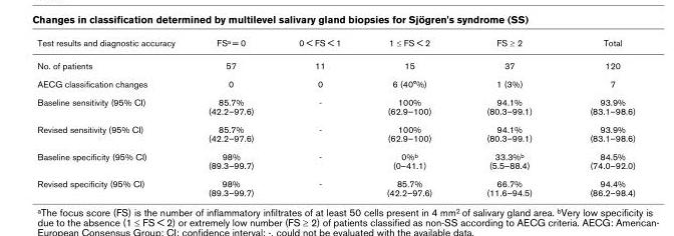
<table><thead><tr><td>Test results and diagnostic accuracy</td><td>FSa = 0</td><td>0 &lt; FS &lt; 1</td><td>1 ≤ FS &lt; 2</td><td>FS ≥ 2</td><td>Total</td></tr></thead><tbody><tr><td>No. of patients</td><td>57</td><td>11</td><td>15</td><td>37</td><td>120</td></tr><tr><td>AECG classification changes</td><td>0</td><td>0</td><td>6 (40°%)</td><td>1 (3%)</td><td>7</td></tr><tr><td>Baseline sensitivity (95% CI)</td><td>85.7% (42.2–97.6)</td><td>-</td><td>100% (62.9–100)</td><td>94.1% (80.3–99.1)</td><td>93.9% (83.1–98.6)</td></tr><tr><td>Revised sensitivity (95% CI)</td><td>85.7% (42.2–97.6)</td><td>-</td><td>100% (62.9–100)</td><td>94.1% (80.3–99.1)</td><td>93.9% (83.1–98.6)</td></tr><tr><td>Baseline specificity (95% CI)</td><td>98% (89.3–99.7)</td><td>-</td><td>0%b (0–41.1)</td><td>33.3%b (5.5–88.4)</td><td>84.5% (74.0–92.0)</td></tr><tr><td>Revised specificity (95% CI)</td><td>98% (89.3–99.7)</td><td>-</td><td>85.7% (42.2–97.6)</td><td>66.7% (11.6–94.5)</td><td>94.4% (86.2–98.4)</td></tr></tbody></table>